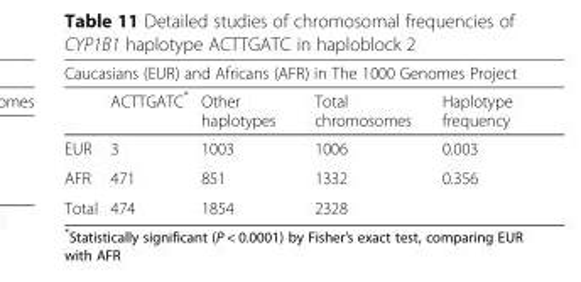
<table><thead><tr><td colspan="5">Caucasians (EUR) and Africans (AFR) in The 1000 Genomes Project</td></tr><tr><td></td><td>ACTTGATC*</td><td>Other haplotypes</td><td>Total chromosomes</td><td>Haplotype frequency</td></tr></thead><tbody><tr><td>EUR</td><td>3</td><td>1003</td><td>1006</td><td>0.003</td></tr><tr><td>AFR</td><td>471</td><td>851</td><td>1332</td><td>0.356</td></tr><tr><td>Total</td><td>474</td><td>1854</td><td>2328</td><td></td></tr></tbody></table>